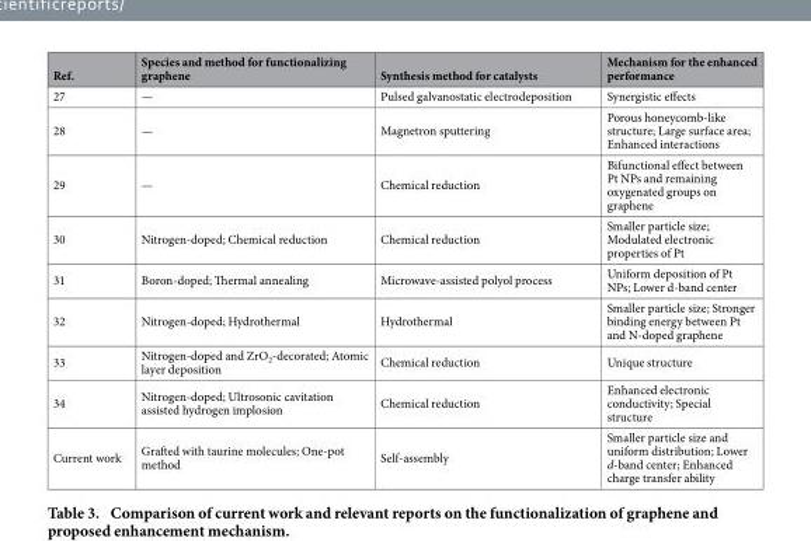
<table><thead><tr><td>Ref.</td><td>Species and method for functionalizing graphene</td><td>Synthesis method for catalysts</td><td>Mechanism for the enhanced performance</td></tr></thead><tbody><tr><td>27</td><td>—</td><td>Pulsed galvanostatic electrodeposition</td><td>Synergistic effects</td></tr><tr><td>28</td><td>—</td><td>Magnetron sputtering</td><td>Porous honeycomb-like structure; Large surface area; Enhanced interactions</td></tr><tr><td>29</td><td>—</td><td>Chemical reduction</td><td>Bifunctional effect between Pt NPs and remaining oxygenated groups on graphene</td></tr><tr><td>30</td><td>Nitrogen-doped; Chemical reduction</td><td>Chemical reduction</td><td>Smaller particle size; Modulated electronic properties of Pt</td></tr><tr><td>31</td><td>Boron-doped; Thermal annealing</td><td>Microwave-assisted polyol process</td><td>Uniform deposition of Pt NPs; Lower d-band center</td></tr><tr><td>32</td><td>Nitrogen-doped; Hydrothermal</td><td>Hydrothermal</td><td>Smaller particle size; Stronger binding energy between Pt and N-doped graphene</td></tr><tr><td>33</td><td>Nitrogen-doped and ZrO<sub>2</sub>-decorated; Atomic layer deposition</td><td>Chemical reduction</td><td>Unique structure</td></tr><tr><td>34</td><td>Nitrogen-doped; Ultrosonic cavitation assisted hydrogen implosion</td><td>Chemical reduction</td><td>Enhanced electronic conductivity; Special structure</td></tr><tr><td>Current work</td><td>Grafted with taurine molecules; One-pot method</td><td>Self-assembly</td><td>Smaller particle size and uniform distribution; Lower d-band center; Enhanced charge transfer ability</td></tr></tbody></table>